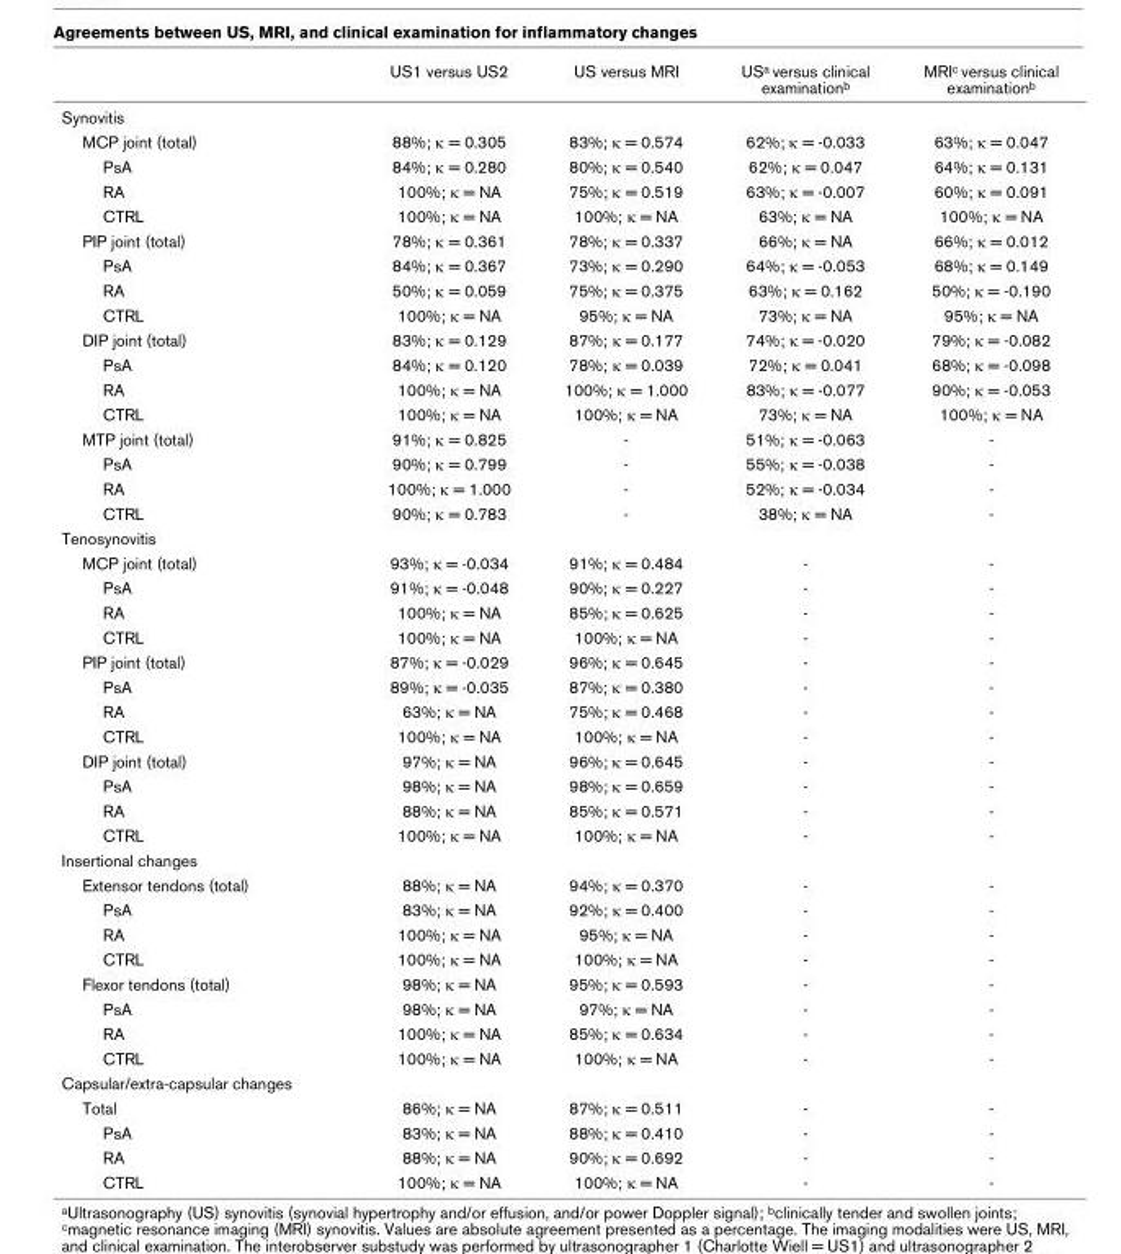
<table><thead><tr><td></td><td>US1 versus US2</td><td>US versus MRI</td><td>US<sup>a</sup> versus clinical examination<sup>b</sup></td><td>MRI<sup>c</sup> versus clinical examination<sup>b</sup></td></tr></thead><tbody><tr><td colspan="5">Synovitis</td></tr><tr><td>MCP joint (total)</td><td>88%; κ = 0.305</td><td>83%; κ = 0.574</td><td>62%; κ = -0.033</td><td>63%; κ = 0.047</td></tr><tr><td>PsA</td><td>84%; κ = 0.280</td><td>80%; κ = 0.540</td><td>62%; κ = 0.047</td><td>64%; κ = 0.131</td></tr><tr><td>RA</td><td>100%; κ = NA</td><td>75%; κ = 0.519</td><td>63%; κ = -0.007</td><td>60%; κ = 0.091</td></tr><tr><td>CTRL</td><td>100%; κ = NA</td><td>100%; κ = NA</td><td>63%; κ = NA</td><td>100%; κ = NA</td></tr><tr><td>PIP joint (total)</td><td>78%; κ = 0.361</td><td>78%; κ = 0.337</td><td>66%; κ = NA</td><td>66%; κ = 0.012</td></tr><tr><td>PsA</td><td>84%; κ = 0.367</td><td>73%; κ = 0.290</td><td>64%; κ = -0.053</td><td>68%; κ = 0.149</td></tr><tr><td>RA</td><td>50%; κ = 0.059</td><td>75%; κ = 0.375</td><td>63%; κ = 0.162</td><td>50%; κ = -0.190</td></tr><tr><td>CTRL</td><td>100%; κ = NA</td><td>95%; κ = NA</td><td>73%; κ = NA</td><td>95%; κ = NA</td></tr><tr><td>DIP joint (total)</td><td>83%; κ = 0.129</td><td>87%; κ = 0.177</td><td>74%; κ = -0.020</td><td>79%; κ = -0.082</td></tr><tr><td>PsA</td><td>84%; κ = 0.120</td><td>78%; κ = 0.039</td><td>72%; κ = 0.041</td><td>68%; κ = -0.098</td></tr><tr><td>RA</td><td>100%; κ = NA</td><td>100%; κ = 1.000</td><td>83%; κ = -0.077</td><td>90%; κ = -0.053</td></tr><tr><td>CTRL</td><td>100%; κ = NA</td><td>100%; κ = NA</td><td>73%; κ = NA</td><td>100%; κ = NA</td></tr><tr><td>MTP joint (total)</td><td>91%; κ = 0.825</td><td>-</td><td>51%; κ = -0.063</td><td>-</td></tr><tr><td>PsA</td><td>90%; κ = 0.799</td><td>-</td><td>55%; κ = -0.038</td><td>-</td></tr><tr><td>RA</td><td>100%; κ = 1.000</td><td>-</td><td>52%; κ = -0.034</td><td>-</td></tr><tr><td>CTRL</td><td>90%; κ = 0.783</td><td>-</td><td>38%; κ = NA</td><td>-</td></tr><tr><td colspan="5">Tenosynovitis</td></tr><tr><td>MCP joint (total)</td><td>93%; κ = -0.034</td><td>91%; κ = 0.484</td><td>-</td><td>-</td></tr><tr><td>PsA</td><td>91%; κ = -0.048</td><td>90%; κ = 0.227</td><td>-</td><td>-</td></tr><tr><td>RA</td><td>100%; κ = NA</td><td>85%; κ = 0.625</td><td>-</td><td>-</td></tr><tr><td>CTRL</td><td>100%; κ = NA</td><td>100%; κ = NA</td><td>-</td><td>-</td></tr><tr><td>PIP joint (total)</td><td>87%; κ = -0.029</td><td>96%; κ = 0.645</td><td>-</td><td>-</td></tr><tr><td>PsA</td><td>89%; κ = -0.035</td><td>87%; κ = 0.380</td><td>-</td><td>-</td></tr><tr><td>RA</td><td>63%; κ = NA</td><td>75%; κ = 0.468</td><td>-</td><td>-</td></tr><tr><td>CTRL</td><td>100%; κ = NA</td><td>100%; κ = NA</td><td>-</td><td>-</td></tr><tr><td>DIP joint (total)</td><td>97%; κ = NA</td><td>96%; κ = 0.645</td><td>-</td><td>-</td></tr><tr><td>PsA</td><td>98%; κ = NA</td><td>98%; κ = 0.659</td><td>-</td><td>-</td></tr><tr><td>RA</td><td>88%; κ = NA</td><td>85%; κ = 0.571</td><td>-</td><td>-</td></tr><tr><td>CTRL</td><td>100%; κ = NA</td><td>100%; κ = NA</td><td>-</td><td>-</td></tr><tr><td colspan="5">Insertional changes</td></tr><tr><td>Extensor tendons (total)</td><td>88%; κ = NA</td><td>94%; κ = 0.370</td><td>-</td><td>-</td></tr><tr><td>PsA</td><td>83%; κ = NA</td><td>92%; κ = 0.400</td><td>-</td><td>-</td></tr><tr><td>RA</td><td>100%; κ = NA</td><td>95%; κ = NA</td><td>-</td><td>-</td></tr><tr><td>CTRL</td><td>100%; κ = NA</td><td>100%; κ = NA</td><td>-</td><td>-</td></tr><tr><td>Flexor tendons (total)</td><td>98%; κ = NA</td><td>95%; κ = 0.593</td><td>-</td><td>-</td></tr><tr><td>PsA</td><td>98%; κ = NA</td><td>97%; κ = NA</td><td>-</td><td>-</td></tr><tr><td>RA</td><td>100%; κ = NA</td><td>85%; κ = 0.634</td><td>-</td><td>-</td></tr><tr><td>CTRL</td><td>100%; κ = NA</td><td>100%; κ = NA</td><td>-</td><td>-</td></tr><tr><td colspan="5">Capsular/extra-capsular changes</td></tr><tr><td>Total</td><td>86%; κ = NA</td><td>87%; κ = 0.511</td><td>-</td><td>-</td></tr><tr><td>PsA</td><td>83%; κ = NA</td><td>88%; κ = 0.410</td><td>-</td><td>-</td></tr><tr><td>RA</td><td>88%; κ = NA</td><td>90%; κ = 0.692</td><td>-</td><td>-</td></tr><tr><td>CTRL</td><td>100%; κ = NA</td><td>100%; κ = NA</td><td>-</td><td>-</td></tr></tbody></table>